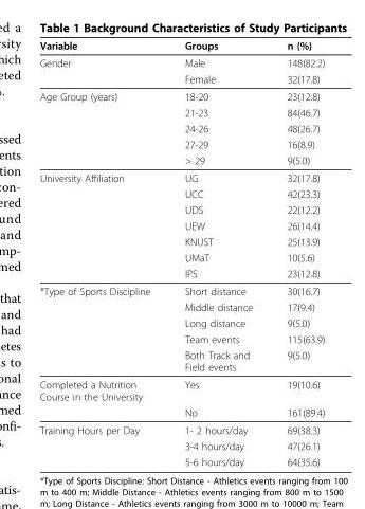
<table><thead><tr><td>Variable</td><td>Groups</td><td>n (%)</td></tr></thead><tbody><tr><td rowspan="2">Gender</td><td>Male</td><td>148(82.2)</td></tr><tr><td>Female</td><td>32(17.8)</td></tr><tr><td rowspan="5">Age Group (years)</td><td>18-20</td><td>23(12.8)</td></tr><tr><td>21-23</td><td>84(46.7)</td></tr><tr><td>24-26</td><td>48(26.7)</td></tr><tr><td>27-29</td><td>16(8.9)</td></tr><tr><td>&gt; 29</td><td>9(5.0)</td></tr><tr><td rowspan="7">University Affiliation</td><td>UG</td><td>32(17.8)</td></tr><tr><td>UCC</td><td>42(23.3)</td></tr><tr><td>UDS</td><td>22(12.2)</td></tr><tr><td>UEW</td><td>26(14.4)</td></tr><tr><td>KNUST</td><td>25(13.9)</td></tr><tr><td>UMaT</td><td>10(5.6)</td></tr><tr><td>IPS</td><td>23(12.8)</td></tr><tr><td rowspan="5">*Type of Sports Discipline</td><td>Short distance</td><td>30(16.7)</td></tr><tr><td>Middle distance</td><td>17(9.4)</td></tr><tr><td>Long distance</td><td>9(5.0)</td></tr><tr><td>Team events</td><td>115(63.9)</td></tr><tr><td>Both Track and Field events</td><td>9(5.0)</td></tr><tr><td rowspan="2">Completed a Nutrition Course in the University</td><td>Yes</td><td>19(10.6)</td></tr><tr><td>No</td><td>161(89.4)</td></tr><tr><td rowspan="3">Training Hours per Day</td><td>1- 2 hours/day</td><td>69(38.3)</td></tr><tr><td>3-4 hours/day</td><td>47(26.1)</td></tr><tr><td>5-6 hours/day</td><td>64(35.6)</td></tr></tbody></table>